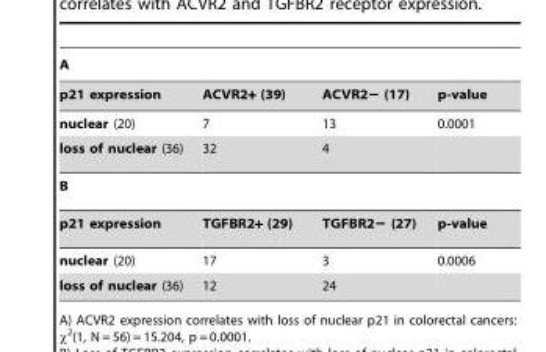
<table><thead><tr><td colspan="4">A</td></tr><tr><td>p21 expression</td><td>ACVR2+ (39)</td><td>ACVR2− (17)</td><td>p-value</td></tr></thead><tbody><tr><td>nuclear (20)</td><td>7</td><td>13</td><td>0.0001</td></tr><tr><td>loss of nuclear (36)</td><td>32</td><td>4</td><td></td></tr><tr><td colspan="4">B</td></tr><tr><td>p21 expression</td><td>TGFBR2+ (29)</td><td>TGFBR2− (27)</td><td>p-value</td></tr><tr><td>nuclear (20)</td><td>17</td><td>3</td><td>0.0006</td></tr><tr><td>loss of nuclear (36)</td><td>12</td><td>24</td><td></td></tr></tbody></table>